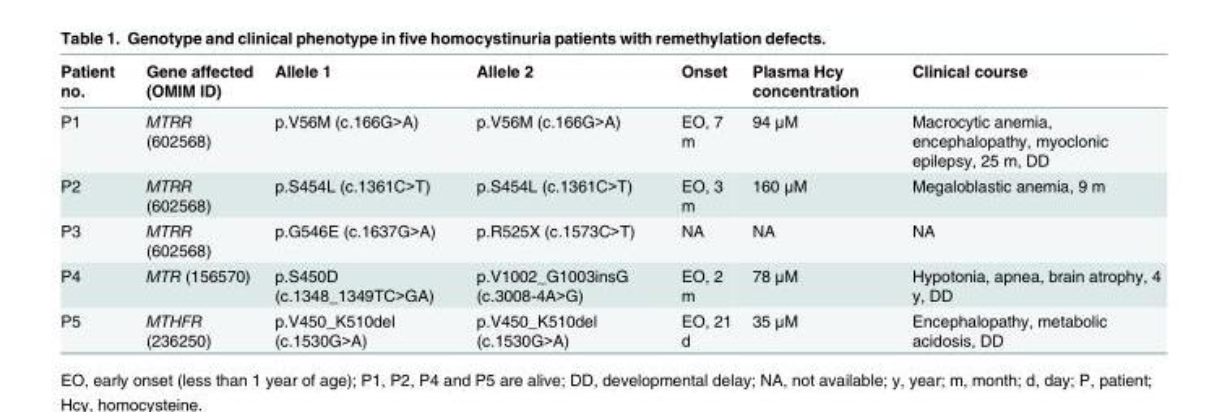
<table><thead><tr><td>Patient no.</td><td>Gene affected (OMIM ID)</td><td>Allele 1</td><td>Allele 2</td><td>Onset</td><td>Plasma Hcy concentration</td><td>Clinical course</td></tr></thead><tbody><tr><td>P1</td><td>MTRR (602568)</td><td>p.V56M (c.166G&gt;A)</td><td>p.V56M (c.166G&gt;A)</td><td>EO, 7 m</td><td>94 μM</td><td>Macrocytic anemia, encephalopathy, myoclonic epilepsy, 25 m, DD</td></tr><tr><td>P2</td><td>MTRR (602568)</td><td>p.S454L (c.1361C&gt;T)</td><td>p.S454L (c.1361C&gt;T)</td><td>EO, 3 m</td><td>160 μM</td><td>Megaloblastic anemia, 9 m</td></tr><tr><td>P3</td><td>MTRR (602568)</td><td>p.G546E (c.1637G&gt;A)</td><td>p.R525X (c.1573C&gt;T)</td><td>NA</td><td>NA</td><td>NA</td></tr><tr><td>P4</td><td>MTR (156570)</td><td>p.S450D (c.1348_1349TC&gt;GA)</td><td>p.V1002_G1003insG (c.3008-4A&gt;G)</td><td>EO, 2 m</td><td>78 μM</td><td>Hypotonia, apnea, brain atrophy, 4 y, DD</td></tr><tr><td>P5</td><td>MTHFR (236250)</td><td>p.V450_K510del (c.1530G&gt;A)</td><td>p.V450_K510del (c.1530G&gt;A)</td><td>EO, 21 d</td><td>35 μM</td><td>Encephalopathy, metabolic acidosis, DD</td></tr></tbody></table>